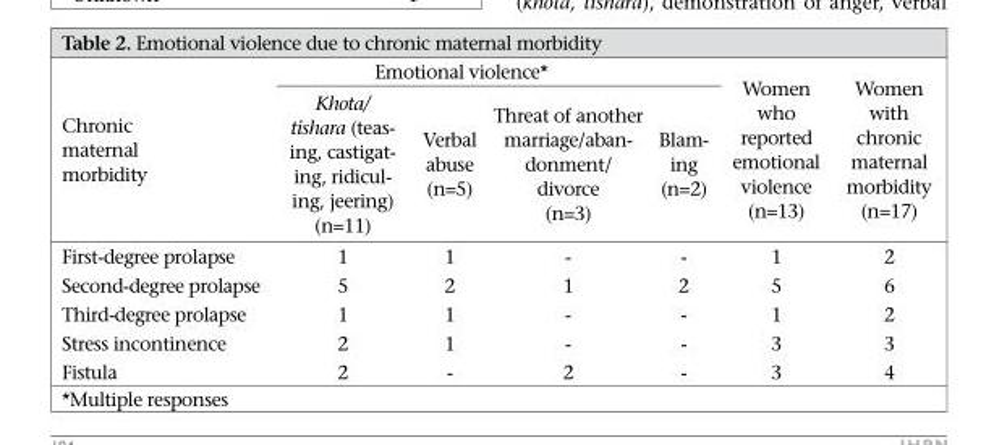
<table><thead><tr><td rowspan="2">Chronic maternal morbidity</td><td colspan="4">Emotional violence*</td><td rowspan="2">Women who reported emotional violence (n=13)</td><td rowspan="2">Women with chronic maternal morbidity (n=17)</td></tr><tr><td>Khota/ tishara (teas- ing, castigat- ing, ridicul- ing, jeering) (n=11)</td><td>Verbal abuse (n=5)</td><td>Threat of another marriage/aban- donment/ divorce (n=3)</td><td>Blam- ing (n=2)</td></tr></thead><tbody><tr><td>First-degree prolapse</td><td>1</td><td>1</td><td>-</td><td>-</td><td>1</td><td>2</td></tr><tr><td>Second-degree prolapse</td><td>5</td><td>2</td><td>1</td><td>2</td><td>5</td><td>6</td></tr><tr><td>Third-degree prolapse</td><td>1</td><td>1</td><td>-</td><td>-</td><td>1</td><td>2</td></tr><tr><td>Stress incontinence</td><td>2</td><td>1</td><td>-</td><td>-</td><td>3</td><td>3</td></tr><tr><td>Fistula</td><td>2</td><td>-</td><td>2</td><td>-</td><td>3</td><td>4</td></tr></tbody></table>